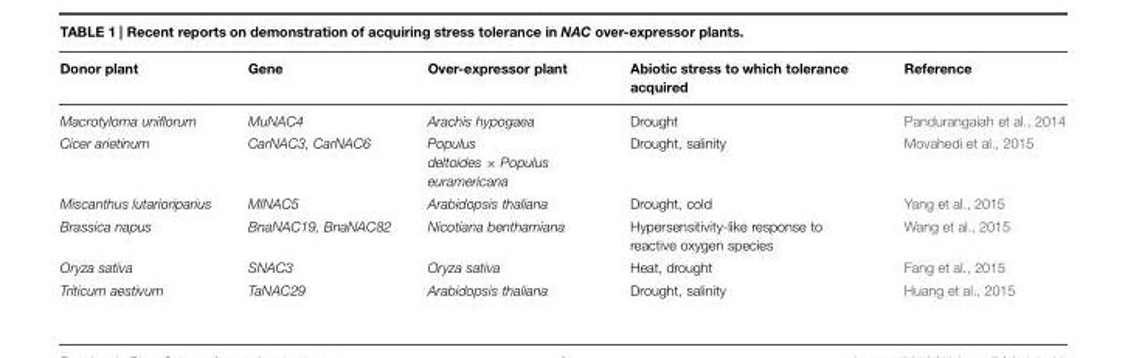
<table><thead><tr><td>Donor plant</td><td>Gene</td><td>Over-expressor plant</td><td>Abiotic stress to which tolerance acquired</td><td>Reference</td></tr></thead><tbody><tr><td>Macrotyloma uniflorum</td><td>MuNAC4</td><td>Arachis hypogaea</td><td>Drought</td><td>Pandurangaiah et al., 2014</td></tr><tr><td>Cicer arietinum</td><td>CarNAC3, CarNAC6</td><td>Populus deltoides × Populus euramericana</td><td>Drought, salinity</td><td>Movahedi et al., 2015</td></tr><tr><td>Miscanthus lutarioriparius</td><td>MlNAC5</td><td>Arabidopsis thaliana</td><td>Drought, cold</td><td>Yang et al., 2015</td></tr><tr><td>Brassica napus</td><td>BnaNAC19, BnaNAC82</td><td>Nicotiana benthamiana</td><td>Hypersensitivity-like response to reactive oxygen species</td><td>Wang et al., 2015</td></tr><tr><td>Oryza sativa</td><td>SNAC3</td><td>Oryza sativa</td><td>Heat, drought</td><td>Fang et al., 2015</td></tr><tr><td>Triticum aestivum</td><td>TaNAC29</td><td>Arabidopsis thaliana</td><td>Drought, salinity</td><td>Huang et al., 2015</td></tr></tbody></table>